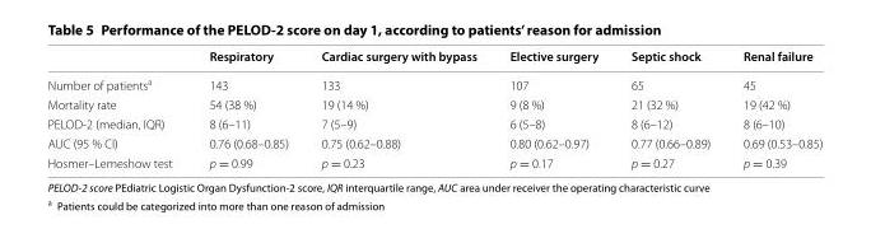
<table><thead><tr><td></td><td>Respiratory</td><td>Cardiac surgery with bypass</td><td>Elective surgery</td><td>Septic shock</td><td>Renal failure</td></tr></thead><tbody><tr><td>Number of patients<sup>a</sup></td><td>143</td><td>133</td><td>107</td><td>65</td><td>45</td></tr><tr><td>Mortality rate</td><td>54 (38 %)</td><td>19 (14 %)</td><td>9 (8 %)</td><td>21 (32 %)</td><td>19 (42 %)</td></tr><tr><td>PELOD-2 (median, IQR)</td><td>8 (6–11)</td><td>7 (5–9)</td><td>6 (5–8)</td><td>8 (6–12)</td><td>8 (6–10)</td></tr><tr><td>AUC (95 % CI)</td><td>0.76 (0.68–0.85)</td><td>0.75 (0.62–0.88)</td><td>0.80 (0.62–0.97)</td><td>0.77 (0.66–0.89)</td><td>0.69 (0.53–0.85)</td></tr><tr><td>Hosmer–Lemeshow test</td><td>p = 0.99</td><td>p = 0.23</td><td>p = 0.17</td><td>p = 0.27</td><td>p = 0.39</td></tr></tbody></table>